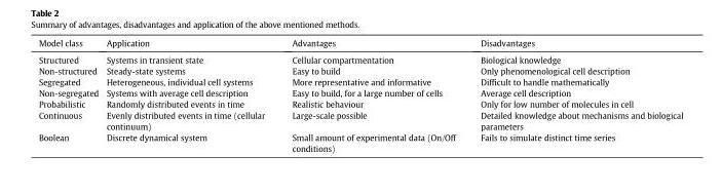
<table><thead><tr><td>Model class</td><td>Application</td><td>Advantages</td><td>Disadvantages</td></tr></thead><tbody><tr><td>Structured</td><td>Systems in transient state</td><td>Cellular compartmentation</td><td>Biological knowledge</td></tr><tr><td>Non-structured</td><td>Steady-state systems</td><td>Easy to build</td><td>Only phenomenological cell description</td></tr><tr><td>Segregated</td><td>Heterogeneous, individual cell systems</td><td>More representative and informative</td><td>Difficult to handle mathematically</td></tr><tr><td>Non-segregated</td><td>Systems with average cell description</td><td>Easy to build, for a large number of cells</td><td>Average cell description</td></tr><tr><td>Probabilistic</td><td>Randomly distributed events in time</td><td>Realistic behaviour</td><td>Only for low number of molecules in cell</td></tr><tr><td>Continuous</td><td>Evenly distributed events in time (cellular continuum)</td><td>Large-scale possible</td><td>Detailed knowledge about mechanisms and biological parameters</td></tr><tr><td>Boolean</td><td>Discrete dynamical system</td><td>Small amount of experimental data (On/Off conditions)</td><td>Fails to simulate distinct time series</td></tr></tbody></table>